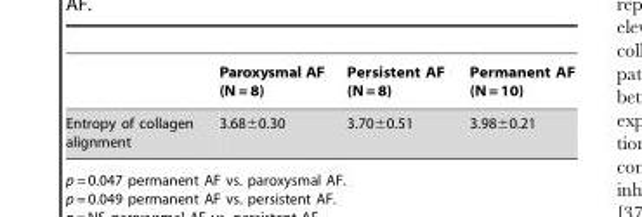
<table><thead><tr><td></td><td>Paroxysmal AF (N = 8)</td><td>Persistent AF (N = 8)</td><td>Permanent AF (N = 10)</td></tr></thead><tbody><tr><td>Entropy of collagen alignment</td><td>3.68±0.30</td><td>3.70±0.51</td><td>3.98±0.21</td></tr></tbody></table>